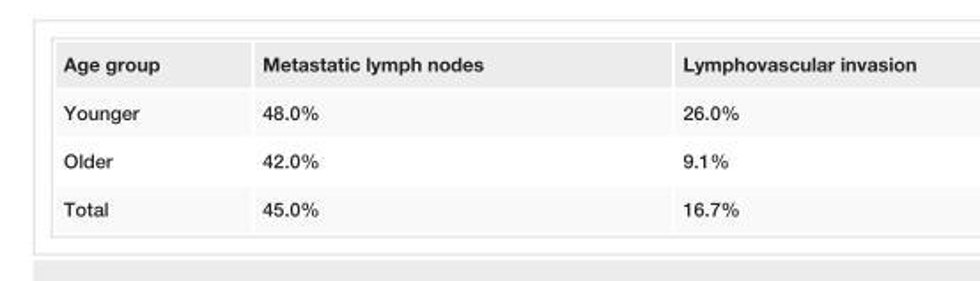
<table><tbody><tr><td>Age group</td><td>Metastatic lymph nodes</td><td>Lymphovascular invasion</td></tr><tr><td>Younger</td><td>48.0%</td><td>26.0%</td></tr><tr><td>Older</td><td>42.0%</td><td>9.1%</td></tr><tr><td>Total</td><td>45.0%</td><td>16.7%</td></tr></tbody></table>